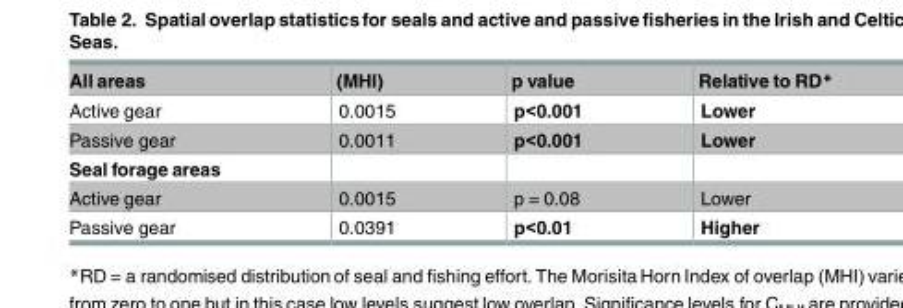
<table><thead><tr><td>All areas</td><td>(MHI)</td><td>p value</td><td>Relative to RD*</td></tr></thead><tbody><tr><td>Active gear</td><td>0.0015</td><td>p&lt;0.001</td><td>Lower</td></tr><tr><td>Passive gear</td><td>0.0011</td><td>p&lt;0.001</td><td>Lower</td></tr><tr><td colspan="4">Seal forage areas</td></tr><tr><td>Active gear</td><td>0.0015</td><td>p = 0.08</td><td>Lower</td></tr><tr><td>Passive gear</td><td>0.0391</td><td>p&lt;0.01</td><td>Higher</td></tr></tbody></table>